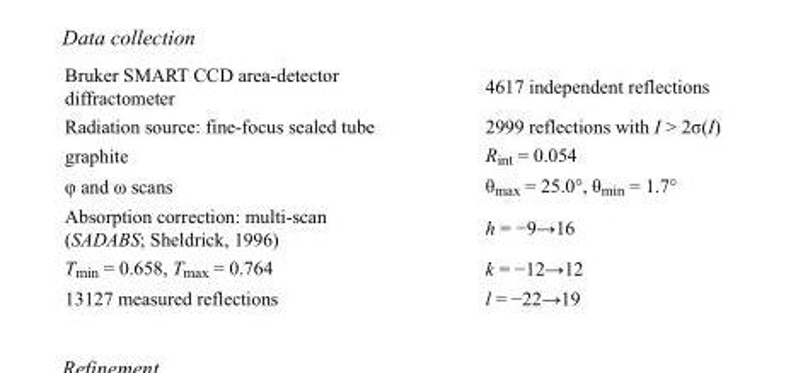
<table><tbody><tr><td>Bruker SMART CCD area-detector diffractometer</td><td>4617 independent reflections</td></tr><tr><td>Radiation source: fine-focus sealed tube</td><td>2999 reflections with I &gt; 2σ(I)</td></tr><tr><td>graphite</td><td>R<sub>int</sub> = 0.054</td></tr><tr><td>φ and ω scans</td><td>θ<sub>max</sub> = 25.0°, θ<sub>min</sub> = 1.7°</td></tr><tr><td>Absorption correction: multi-scan (SADABS; Sheldrick, 1996)</td><td>h = −9→16</td></tr><tr><td>T<sub>min</sub> = 0.658, T<sub>max</sub> = 0.764</td><td>k = −12→12</td></tr><tr><td>13127 measured reflections</td><td>l = −22→19</td></tr></tbody></table>